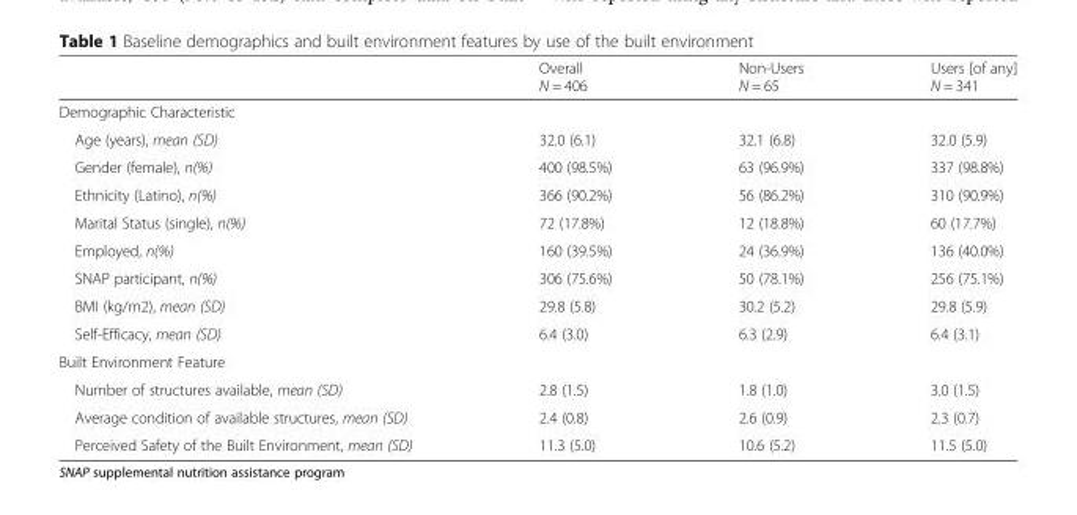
<table><thead><tr><td></td><td>Overall N = 406</td><td>Non-Users N = 65</td><td>Users [of any] N = 341</td></tr></thead><tbody><tr><td colspan="4">Demographic Characteristic</td></tr><tr><td>Age (years), mean (SD)</td><td>32.0 (6.1)</td><td>32.1 (6.8)</td><td>32.0 (5.9)</td></tr><tr><td>Gender (female), n(%)</td><td>400 (98.5%)</td><td>63 (96.9%)</td><td>337 (98.8%)</td></tr><tr><td>Ethnicity (Latino), n(%)</td><td>366 (90.2%)</td><td>56 (86.2%)</td><td>310 (90.9%)</td></tr><tr><td>Marital Status (single), n(%)</td><td>72 (17.8%)</td><td>12 (18.8%)</td><td>60 (17.7%)</td></tr><tr><td>Employed, n(%)</td><td>160 (39.5%)</td><td>24 (36.9%)</td><td>136 (40.0%)</td></tr><tr><td>SNAP participant, n(%)</td><td>306 (75.6%)</td><td>50 (78.1%)</td><td>256 (75.1%)</td></tr><tr><td>BMI (kg/m2), mean (SD)</td><td>29.8 (5.8)</td><td>30.2 (5.2)</td><td>29.8 (5.9)</td></tr><tr><td>Self-Efficacy, mean (SD)</td><td>6.4 (3.0)</td><td>6.3 (2.9)</td><td>6.4 (3.1)</td></tr><tr><td colspan="4">Built Environment Feature</td></tr><tr><td>Number of structures available, mean (SD)</td><td>2.8 (1.5)</td><td>1.8 (1.0)</td><td>3.0 (1.5)</td></tr><tr><td>Average condition of available structures, mean (SD)</td><td>2.4 (0.8)</td><td>2.6 (0.9)</td><td>2.3 (0.7)</td></tr><tr><td>Perceived Safety of the Built Environment, mean (SD)</td><td>11.3 (5.0)</td><td>10.6 (5.2)</td><td>11.5 (5.0)</td></tr></tbody></table>